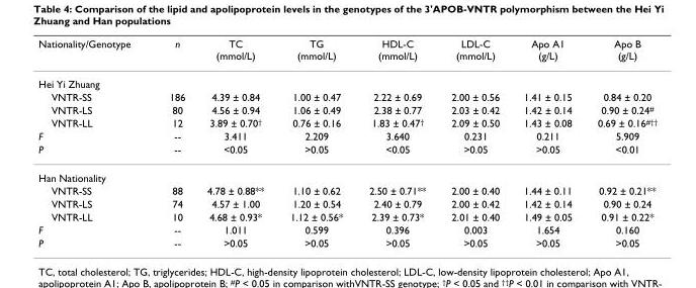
<table><thead><tr><td>Nationality/Genotype</td><td>n</td><td>TC (mmol/L)</td><td>TG (mmol/L)</td><td>HDL-C (mmol/L)</td><td>LDL-C (mmol/L)</td><td>Apo A1 (g/L)</td><td>Apo B (g/L)</td></tr></thead><tbody><tr><td colspan="8">Hei Yi Zhuang</td></tr><tr><td>VNTR-SS</td><td>186</td><td>4.39 ± 0.84</td><td>1.00 ± 0.47</td><td>2.22 ± 0.69</td><td>2.00 ± 0.56</td><td>1.41 ± 0.15</td><td>0.84 ± 0.20</td></tr><tr><td>VNTR-LS</td><td>80</td><td>4.56 ± 0.94</td><td>1.06 ± 0.49</td><td>2.38 ± 0.77</td><td>2.03 ± 0.42</td><td>1.42 ± 0.14</td><td>0.90 ± 0.24<sup>#</sup></td></tr><tr><td>VNTR-LL</td><td>12</td><td>3.89 ± 0.70<sup>†</sup></td><td>0.76 ± 0.16</td><td>1.83 ± 0.47<sup>†</sup></td><td>2.09 ± 0.50</td><td>1.43 ± 0.08</td><td>0.69 ± 0.16<sup>#††</sup></td></tr><tr><td>F</td><td>--</td><td>3.411</td><td>2.209</td><td>3.640</td><td>0.231</td><td>0.211</td><td>5.909</td></tr><tr><td>P</td><td>--</td><td>&lt;0.05</td><td>&gt;0.05</td><td>&lt;0.05</td><td>&gt;0.05</td><td>&gt;0.05</td><td>&lt;0.01</td></tr><tr><td colspan="8">Han Nationality</td></tr><tr><td>VNTR-SS</td><td>88</td><td>4.78 ± 0.88**</td><td>1.10 ± 0.62</td><td>2.50 ± 0.71**</td><td>2.00 ± 0.40</td><td>1.44 ± 0.11</td><td>0.92 ± 0.21**</td></tr><tr><td>VNTR-LS</td><td>74</td><td>4.57 ± 1.00</td><td>1.20 ± 0.54</td><td>2.40 ± 0.79</td><td>2.00 ± 0.42</td><td>1.42 ± 0.14</td><td>0.90 ± 0.24</td></tr><tr><td>VNTR-LL</td><td>10</td><td>4.68 ± 0.93*</td><td>1.12 ± 0.56*</td><td>2.39 ± 0.73*</td><td>2.01 ± 0.40</td><td>1.49 ± 0.05</td><td>0.91 ± 0.22*</td></tr><tr><td>F</td><td>--</td><td>1.011</td><td>0.599</td><td>0.396</td><td>0.003</td><td>1.654</td><td>0.160</td></tr><tr><td>P</td><td>--</td><td>&gt;0.05</td><td>&gt;0.05</td><td>&gt;0.05</td><td>&gt;0.05</td><td>&gt;0.05</td><td>&gt;0.05</td></tr></tbody></table>